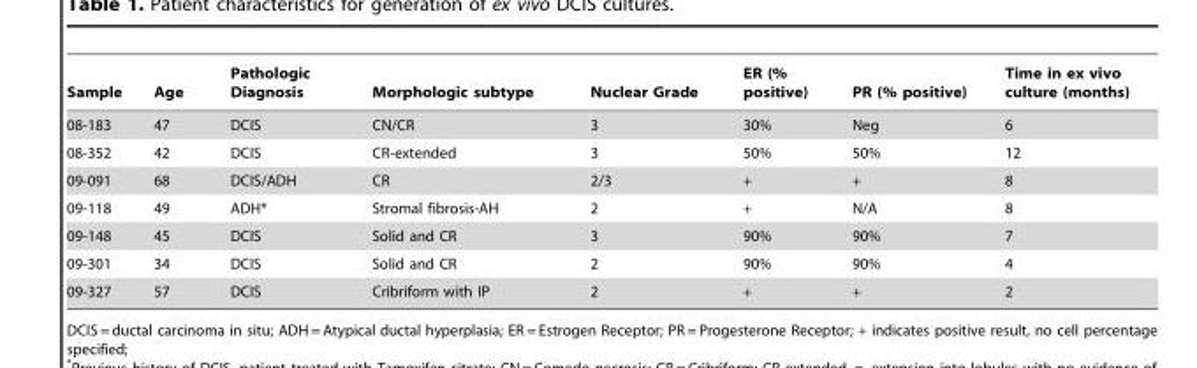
<table><thead><tr><td>Sample</td><td>Age</td><td>Pathologic Diagnosis</td><td>Morphologic subtype</td><td>Nuclear Grade</td><td>ER (% positive)</td><td>PR (% positive)</td><td>Time in ex vivo culture (months)</td></tr></thead><tbody><tr><td>08-183</td><td>47</td><td>DCIS</td><td>CN/CR</td><td>3</td><td>30%</td><td>Neg</td><td>6</td></tr><tr><td>08-352</td><td>42</td><td>DCIS</td><td>CR-extended</td><td>3</td><td>50%</td><td>50%</td><td>12</td></tr><tr><td>09-091</td><td>68</td><td>DCIS/ADH</td><td>CR</td><td>2/3</td><td>+</td><td>+</td><td>8</td></tr><tr><td>09-118</td><td>49</td><td>ADH*</td><td>Stromal fibrosis-AH</td><td>2</td><td>+</td><td>N/A</td><td>8</td></tr><tr><td>09-148</td><td>45</td><td>DCIS</td><td>Solid and CR</td><td>3</td><td>90%</td><td>90%</td><td>7</td></tr><tr><td>09-301</td><td>34</td><td>DCIS</td><td>Solid and CR</td><td>2</td><td>90%</td><td>90%</td><td>4</td></tr><tr><td>09-327</td><td>57</td><td>DCIS</td><td>Cribriform with IP</td><td>2</td><td>+</td><td>+</td><td>2</td></tr></tbody></table>